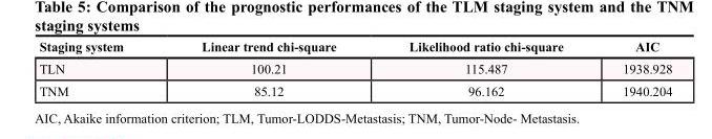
<table><thead><tr><td>Staging system</td><td>Linear trend chi-square</td><td>Likelihood ratio chi-square</td><td>AIC</td></tr></thead><tbody><tr><td>TLN</td><td>100.21</td><td>115.487</td><td>1938.928</td></tr><tr><td>TNM</td><td>85.12</td><td>96.162</td><td>1940.204</td></tr></tbody></table>